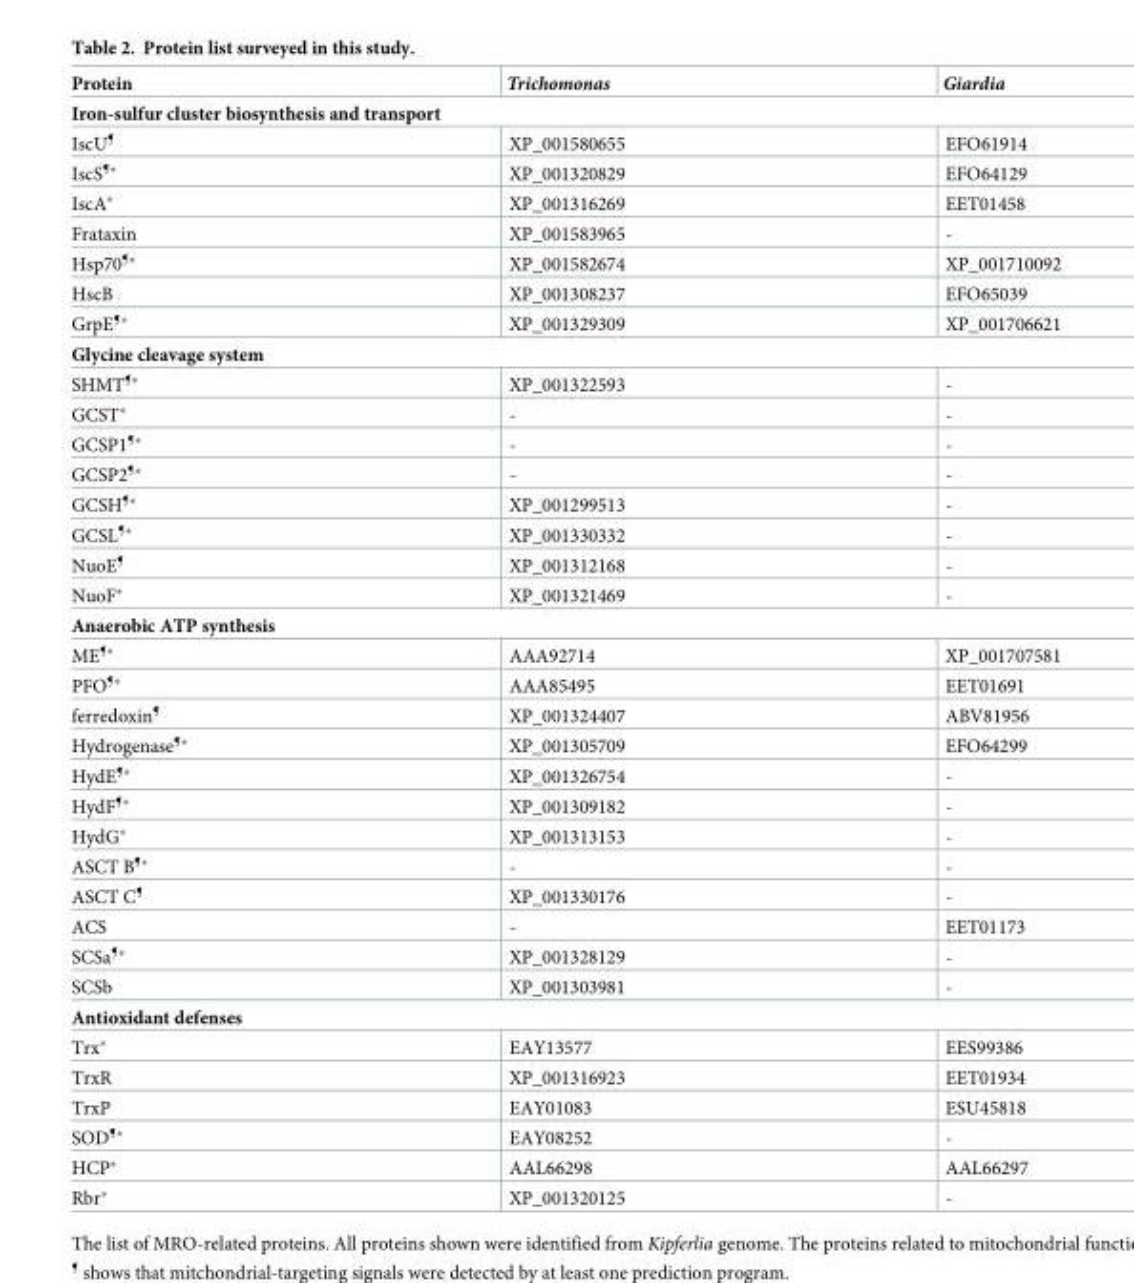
<table><thead><tr><td>Protein</td><td>Trichomonas</td><td>Giardia</td></tr></thead><tbody><tr><td colspan="3">Iron-sulfur cluster biosynthesis and transport</td></tr><tr><td>IscU<sup>¶</sup></td><td>XP_001580655</td><td>EFO61914</td></tr><tr><td>IscS<sup>¶</sup>*</td><td>XP_001320829</td><td>EFO64129</td></tr><tr><td>IscA*</td><td>XP_001316269</td><td>EET01458</td></tr><tr><td>Frataxin</td><td>XP_001583965</td><td>-</td></tr><tr><td>Hsp70<sup>¶</sup>*</td><td>XP_001582674</td><td>XP_001710092</td></tr><tr><td>HscB</td><td>XP_001308237</td><td>EFO65039</td></tr><tr><td>GrpE<sup>¶</sup>*</td><td>XP_001329309</td><td>XP_001706621</td></tr><tr><td colspan="3">Glycine cleavage system</td></tr><tr><td>SHMT<sup>¶</sup>*</td><td>XP_001322593</td><td>-</td></tr><tr><td>GCST*</td><td>-</td><td>-</td></tr><tr><td>GCSP1<sup>¶</sup>*</td><td>-</td><td>-</td></tr><tr><td>GCSP2<sup>¶</sup>*</td><td>-</td><td>-</td></tr><tr><td>GCSH<sup>¶</sup>*</td><td>XP_001299513</td><td>-</td></tr><tr><td>GCSL<sup>¶</sup>*</td><td>XP_001330332</td><td>-</td></tr><tr><td>NuoE<sup>¶</sup></td><td>XP_001312168</td><td>-</td></tr><tr><td>NuoF*</td><td>XP_001321469</td><td>-</td></tr><tr><td colspan="3">Anaerobic ATP synthesis</td></tr><tr><td>ME<sup>¶</sup>*</td><td>AAA92714</td><td>XP_001707581</td></tr><tr><td>PFO<sup>¶</sup>*</td><td>AAA85495</td><td>EET01691</td></tr><tr><td>ferredoxin<sup>¶</sup></td><td>XP_001324407</td><td>ABV81956</td></tr><tr><td>Hydrogenase<sup>¶</sup>*</td><td>XP_001305709</td><td>EFO64299</td></tr><tr><td>HydE<sup>¶</sup>*</td><td>XP_001326754</td><td>-</td></tr><tr><td>HydF<sup>¶</sup>*</td><td>XP_001309182</td><td>-</td></tr><tr><td>HydG*</td><td>XP_001313153</td><td>-</td></tr><tr><td>ASCT B<sup>¶</sup>*</td><td>-</td><td>-</td></tr><tr><td>ASCT C<sup>¶</sup></td><td>XP_001330176</td><td>-</td></tr><tr><td>ACS</td><td>-</td><td>EET01173</td></tr><tr><td>SCSa<sup>¶</sup>*</td><td>XP_001328129</td><td>-</td></tr><tr><td>SCSb</td><td>XP_001303981</td><td>-</td></tr><tr><td colspan="3">Antioxidant defenses</td></tr><tr><td>Trx*</td><td>EAY13577</td><td>EES99386</td></tr><tr><td>TrxR</td><td>XP_001316923</td><td>EET01934</td></tr><tr><td>TrxP</td><td>EAY01083</td><td>ESU45818</td></tr><tr><td>SOD<sup>¶</sup>*</td><td>EAY08252</td><td>-</td></tr><tr><td>HCP*</td><td>AAL66298</td><td>AAL66297</td></tr><tr><td>Rbr*</td><td>XP_001320125</td><td>-</td></tr></tbody></table>